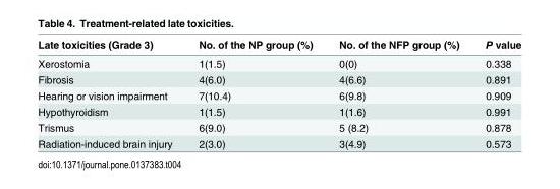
<table><thead><tr><td>Late toxicities (Grade 3)</td><td>No. of the NP group (%)</td><td>No. of the NFP group (%)</td><td>P value</td></tr></thead><tbody><tr><td>Xerostomia</td><td>1(1.5)</td><td>0(0)</td><td>0.338</td></tr><tr><td>Fibrosis</td><td>4(6.0)</td><td>4(6.6)</td><td>0.891</td></tr><tr><td>Hearing or vision impairment</td><td>7(10.4)</td><td>6(9.8)</td><td>0.909</td></tr><tr><td>Hypothyroidism</td><td>1(1.5)</td><td>1(1.6)</td><td>0.991</td></tr><tr><td>Trismus</td><td>6(9.0)</td><td>5 (8.2)</td><td>0.878</td></tr><tr><td>Radiation-induced brain injury</td><td>2(3.0)</td><td>3(4.9)</td><td>0.573</td></tr></tbody></table>